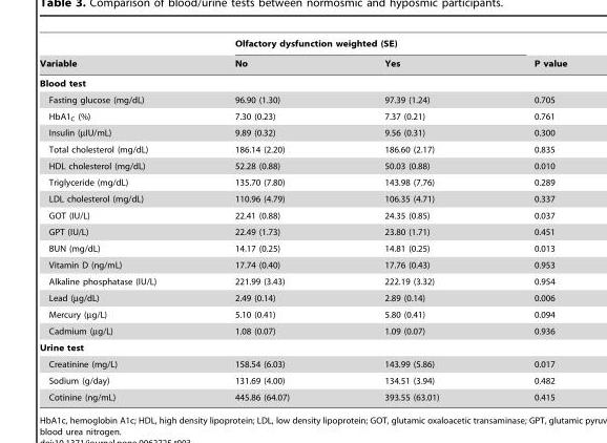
<table><thead><tr><td rowspan="2">Variable</td><td colspan="2">Olfactory dysfunction weighted (SE)</td><td rowspan="2">P value</td></tr><tr><td>No</td><td>Yes</td></tr></thead><tbody><tr><td colspan="4">Blood test</td></tr><tr><td>Fasting glucose (mg/dL)</td><td>96.90 (1.30)</td><td>97.39 (1.24)</td><td>0.705</td></tr><tr><td>HbA1<sub>C</sub> (%)</td><td>7.30 (0.23)</td><td>7.37 (0.21)</td><td>0.761</td></tr><tr><td>Insulin (µIU/mL)</td><td>9.89 (0.32)</td><td>9.56 (0.31)</td><td>0.300</td></tr><tr><td>Total cholesterol (mg/dL)</td><td>186.14 (2.20)</td><td>186.60 (2.17)</td><td>0.835</td></tr><tr><td>HDL cholesterol (mg/dL)</td><td>52.28 (0.88)</td><td>50.03 (0.88)</td><td>0.010</td></tr><tr><td>Triglyceride (mg/dL)</td><td>135.70 (7.80)</td><td>143.98 (7.76)</td><td>0.289</td></tr><tr><td>LDL cholesterol (mg/dL)</td><td>110.96 (4.79)</td><td>106.35 (4.71)</td><td>0.337</td></tr><tr><td>GOT (IU/L)</td><td>22.41 (0.88)</td><td>24.35 (0.85)</td><td>0.037</td></tr><tr><td>GPT (IU/L)</td><td>22.49 (1.73)</td><td>23.80 (1.71)</td><td>0.451</td></tr><tr><td>BUN (mg/dL)</td><td>14.17 (0.25)</td><td>14.81 (0.25)</td><td>0.013</td></tr><tr><td>Vitamin D (ng/mL)</td><td>17.74 (0.40)</td><td>17.76 (0.43)</td><td>0.953</td></tr><tr><td>Alkaline phosphatase (IU/L)</td><td>221.99 (3.43)</td><td>222.19 (3.32)</td><td>0.954</td></tr><tr><td>Lead (µg/dL)</td><td>2.49 (0.14)</td><td>2.89 (0.14)</td><td>0.006</td></tr><tr><td>Mercury (µg/L)</td><td>5.10 (0.41)</td><td>5.80 (0.41)</td><td>0.094</td></tr><tr><td>Cadmium (µg/L)</td><td>1.08 (0.07)</td><td>1.09 (0.07)</td><td>0.936</td></tr><tr><td colspan="4">Urine test</td></tr><tr><td>Creatinine (mg/L)</td><td>158.54 (6.03)</td><td>143.99 (5.86)</td><td>0.017</td></tr><tr><td>Sodium (g/day)</td><td>131.69 (4.00)</td><td>134.51 (3.94)</td><td>0.482</td></tr><tr><td>Cotinine (ng/mL)</td><td>445.86 (64.07)</td><td>393.55 (63.01)</td><td>0.415</td></tr></tbody></table>